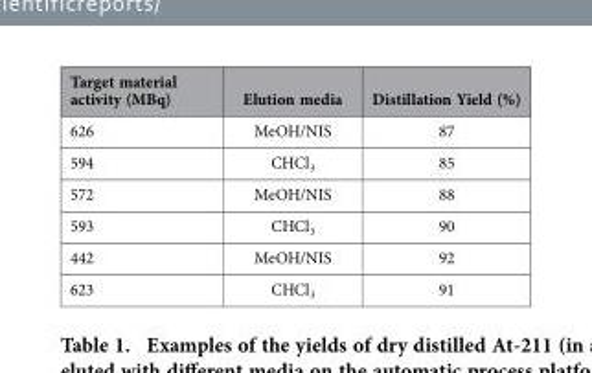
<table><thead><tr><td>Target material activity (MBq)</td><td>Elution media</td><td>Distillation Yield (%)</td></tr></thead><tbody><tr><td>626</td><td>MeOH/NIS</td><td>87</td></tr><tr><td>594</td><td>CHCl<sub>3</sub></td><td>85</td></tr><tr><td>572</td><td>MeOH/NIS</td><td>88</td></tr><tr><td>593</td><td>CHCl<sub>3</sub></td><td>90</td></tr><tr><td>442</td><td>MeOH/NIS</td><td>92</td></tr><tr><td>623</td><td>CHCl<sub>3</sub></td><td>91</td></tr></tbody></table>